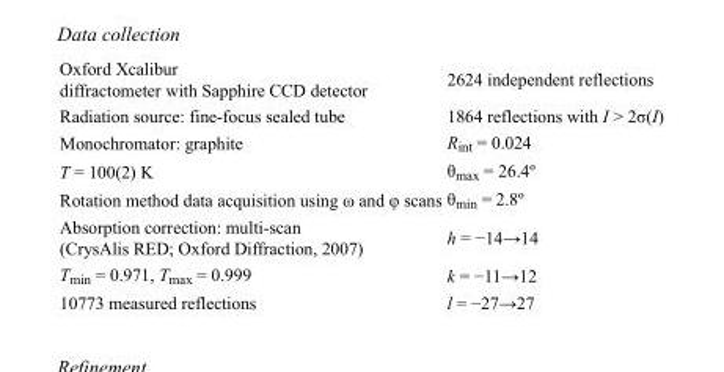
<table><tbody><tr><td>Oxford Xcalibur diffractometer with Sapphire CCD detector</td><td>2624 independent reflections</td></tr><tr><td>Radiation source: fine-focus sealed tube</td><td>1864 reflections with I &gt; 2σ(I)</td></tr><tr><td>Monochromator: graphite</td><td>R<sub>int</sub> = 0.024</td></tr><tr><td>T = 100(2) K</td><td>θ<sub>max</sub> = 26.4º</td></tr><tr><td>Rotation method data acquisition using ω and φ scans</td><td>θ<sub>min</sub> = 2.8º</td></tr><tr><td>Absorption correction: multi-scan (CrysAlis RED; Oxford Diffraction, 2007)</td><td>h = −14→14</td></tr><tr><td>T<sub>min</sub> = 0.971, T<sub>max</sub> = 0.999</td><td>k = −11→12</td></tr><tr><td>10773 measured reflections</td><td>l = −27→27</td></tr></tbody></table>